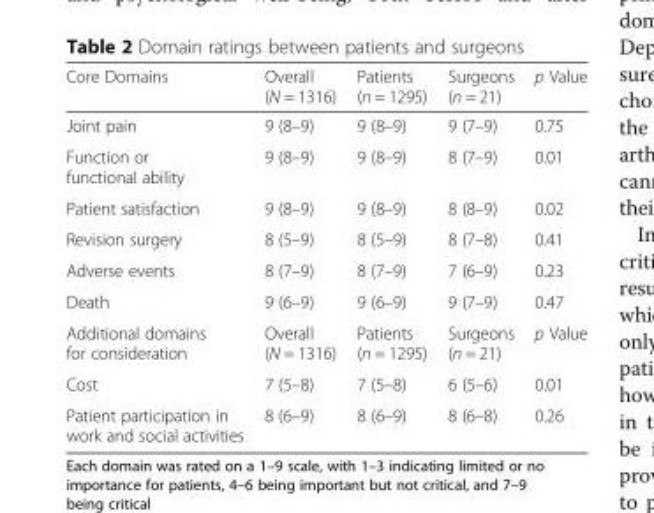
<table><thead><tr><td>Core Domains</td><td>Overall (N = 1316)</td><td>Patients (n = 1295)</td><td>Surgeons (n = 21)</td><td>p Value</td></tr></thead><tbody><tr><td>Joint pain</td><td>9 (8–9)</td><td>9 (8–9)</td><td>9 (7–9)</td><td>0.75</td></tr><tr><td>Function or functional ability</td><td>9 (8–9)</td><td>9 (8–9)</td><td>8 (7–9)</td><td>0.01</td></tr><tr><td>Patient satisfaction</td><td>9 (8–9)</td><td>9 (8–9)</td><td>8 (8–9)</td><td>0.02</td></tr><tr><td>Revision surgery</td><td>8 (5–9)</td><td>8 (5–9)</td><td>8 (7–8)</td><td>0.41</td></tr><tr><td>Adverse events</td><td>8 (7–9)</td><td>8 (7–9)</td><td>7 (6–9)</td><td>0.23</td></tr><tr><td>Death</td><td>9 (6–9)</td><td>9 (6–9)</td><td>9 (7–9)</td><td>0.47</td></tr><tr><td>Additional domains for consideration</td><td>Overall (N = 1316)</td><td>Patients (n = 1295)</td><td>Surgeons (n = 21)</td><td>p Value</td></tr><tr><td>Cost</td><td>7 (5–8)</td><td>7 (5–8)</td><td>6 (5–6)</td><td>0.01</td></tr><tr><td>Patient participation in work and social activities</td><td>8 (6–9)</td><td>8 (6–9)</td><td>8 (6–8)</td><td>0.26</td></tr></tbody></table>